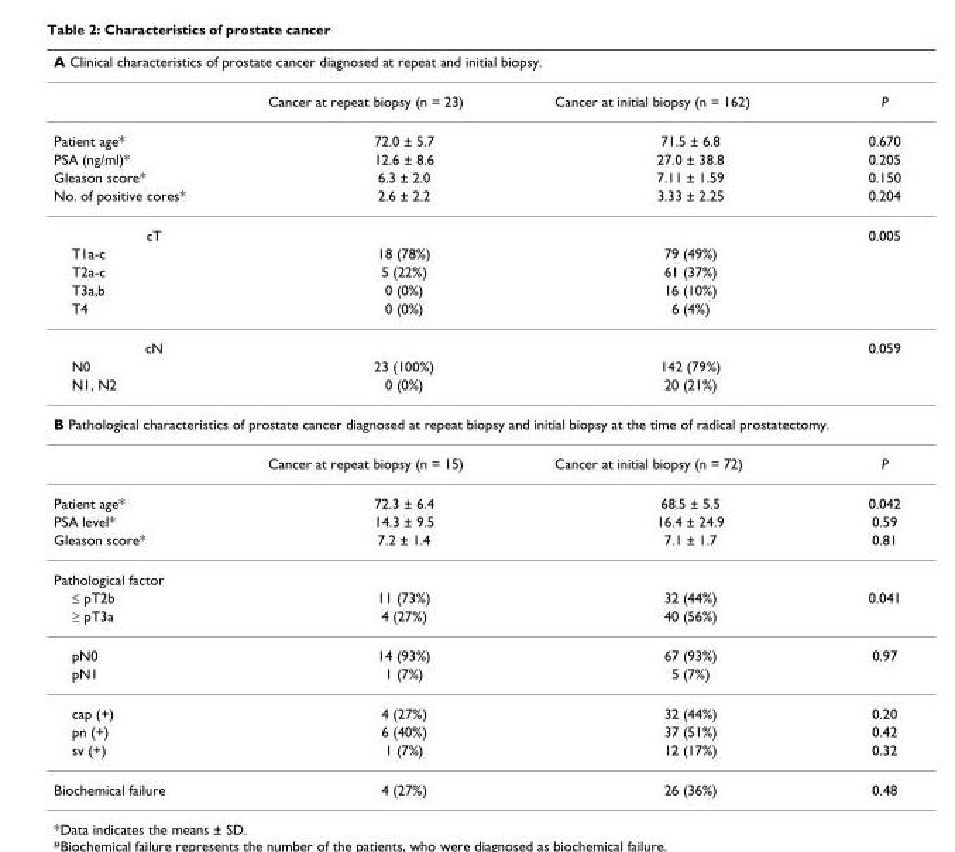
<table><thead><tr><td colspan="4">A Clinical characteristics of prostate cancer diagnosed at repeat and initial biopsy.</td></tr><tr><td></td><td>Cancer at repeat biopsy (n = 23)</td><td>Cancer at initial biopsy (n = 162)</td><td>P</td></tr></thead><tbody><tr><td>Patient age*</td><td>72.0 ± 5.7</td><td>71.5 ± 6.8</td><td>0.670</td></tr><tr><td>PSA (ng/ml)*</td><td>12.6 ± 8.6</td><td>27.0 ± 38.8</td><td>0.205</td></tr><tr><td>Gleason score*</td><td>6.3 ± 2.0</td><td>7.11 ± 1.59</td><td>0.150</td></tr><tr><td>No. of positive cores*</td><td>2.6 ± 2.2</td><td>3.33 ± 2.25</td><td>0.204</td></tr><tr><td>cT</td><td></td><td></td><td>0.005</td></tr><tr><td>T1a-c</td><td>18 (78%)</td><td>79 (49%)</td><td></td></tr><tr><td>T2a-c</td><td>5 (22%)</td><td>61 (37%)</td><td></td></tr><tr><td>T3a,b</td><td>0 (0%)</td><td>16 (10%)</td><td></td></tr><tr><td>T4</td><td>0 (0%)</td><td>6 (4%)</td><td></td></tr><tr><td>cN</td><td></td><td></td><td>0.059</td></tr><tr><td>N0</td><td>23 (100%)</td><td>142 (79%)</td><td></td></tr><tr><td>N1, N2</td><td>0 (0%)</td><td>20 (21%)</td><td></td></tr><tr><td colspan="4">B Pathological characteristics of prostate cancer diagnosed at repeat biopsy and initial biopsy at the time of radical prostatectomy.</td></tr><tr><td></td><td>Cancer at repeat biopsy (n = 15)</td><td>Cancer at initial biopsy (n = 72)</td><td>P</td></tr><tr><td>Patient age*</td><td>72.3 ± 6.4</td><td>68.5 ± 5.5</td><td>0.042</td></tr><tr><td>PSA level*</td><td>14.3 ± 9.5</td><td>16.4 ± 24.9</td><td>0.59</td></tr><tr><td>Gleason score*</td><td>7.2 ± 1.4</td><td>7.1 ± 1.7</td><td>0.81</td></tr><tr><td colspan="4">Pathological factor</td></tr><tr><td>≤ pT2b</td><td>11 (73%)</td><td>32 (44%)</td><td>0.041</td></tr><tr><td>≥ pT3a</td><td>4 (27%)</td><td>40 (56%)</td><td></td></tr><tr><td>pN0</td><td>14 (93%)</td><td>67 (93%)</td><td>0.97</td></tr><tr><td>pN1</td><td>1 (7%)</td><td>5 (7%)</td><td></td></tr><tr><td>cap (+)</td><td>4 (27%)</td><td>32 (44%)</td><td>0.20</td></tr><tr><td>pn (+)</td><td>6 (40%)</td><td>37 (51%)</td><td>0.42</td></tr><tr><td>sv (+)</td><td>1 (7%)</td><td>12 (17%)</td><td>0.32</td></tr><tr><td>Biochemical failure</td><td>4 (27%)</td><td>26 (36%)</td><td>0.48</td></tr></tbody></table>